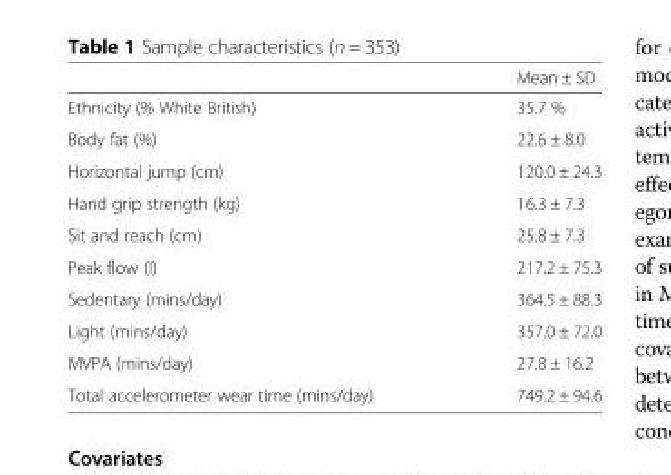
<table><thead><tr><td></td><td>Mean ± SD</td></tr></thead><tbody><tr><td>Ethnicity (% White British)</td><td>35.7 %</td></tr><tr><td>Body fat (%)</td><td>22.6 ± 8.0</td></tr><tr><td>Horizontal jump (cm)</td><td>120.0 ± 24.3</td></tr><tr><td>Hand grip strength (kg)</td><td>16.3 ± 7.3</td></tr><tr><td>Sit and reach (cm)</td><td>25.8 ± 7.3</td></tr><tr><td>Peak flow (l)</td><td>217.2 ± 75.3</td></tr><tr><td>Sedentary (mins/day)</td><td>364.5 ± 88.3</td></tr><tr><td>Light (mins/day)</td><td>357.0 ± 72.0</td></tr><tr><td>MVPA (mins/day)</td><td>27.8 ± 16.2</td></tr><tr><td>Total accelerometer wear time (mins/day)</td><td>749.2 ± 94.6</td></tr></tbody></table>